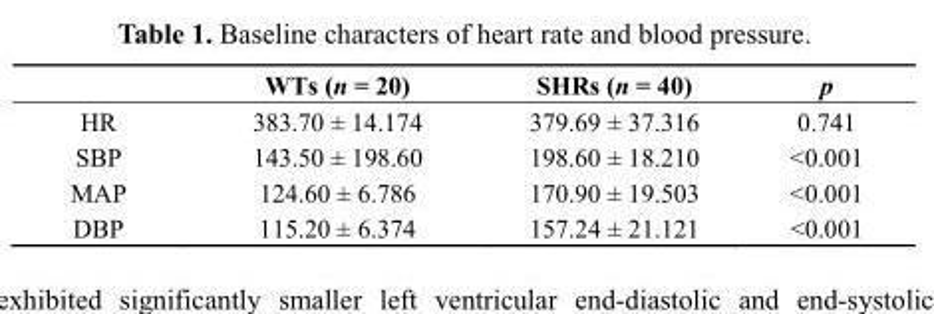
<table><thead><tr><td></td><td>WTs (n = 20)</td><td>SHRs (n = 40)</td><td>p</td></tr></thead><tbody><tr><td>HR</td><td>383.70 ± 14.174</td><td>379.69 ± 37.316</td><td>0.741</td></tr><tr><td>SBP</td><td>143.50 ± 198.60</td><td>198.60 ± 18.210</td><td>&lt;0.001</td></tr><tr><td>MAP</td><td>124.60 ± 6.786</td><td>170.90 ± 19.503</td><td>&lt;0.001</td></tr><tr><td>DBP</td><td>115.20 ± 6.374</td><td>157.24 ± 21.121</td><td>&lt;0.001</td></tr></tbody></table>